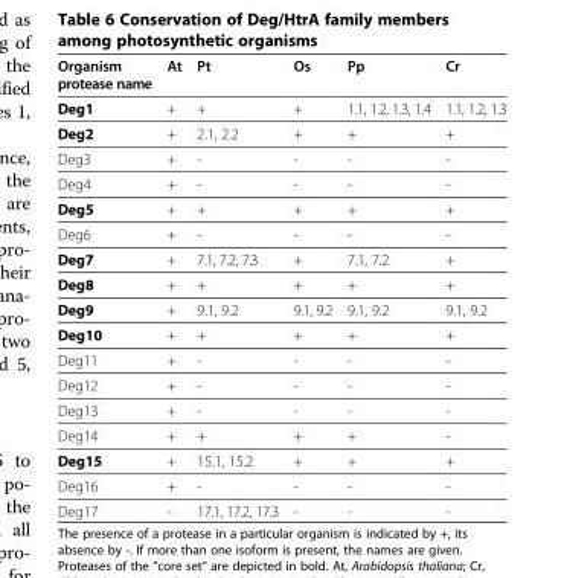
<table><thead><tr><td>Organism protease name</td><td>At</td><td>Pt</td><td>Os</td><td>Pp</td><td>Cr</td></tr></thead><tbody><tr><td>Deg1</td><td>+</td><td>+</td><td>+</td><td>1.1, 1.2, 1.3, 1.4</td><td>1.1, 1.2, 1.3</td></tr><tr><td>Deg2</td><td>+</td><td>2.1, 2.2</td><td>+</td><td>+</td><td>+</td></tr><tr><td>Deg3</td><td>+</td><td>-</td><td>-</td><td>-</td><td>-</td></tr><tr><td>Deg4</td><td>+</td><td>-</td><td>-</td><td>-</td><td>-</td></tr><tr><td>Deg5</td><td>+</td><td>+</td><td>+</td><td>+</td><td>+</td></tr><tr><td>Deg6</td><td>+</td><td>-</td><td>-</td><td>-</td><td>-</td></tr><tr><td>Deg7</td><td>+</td><td>7.1, 7.2, 7.3</td><td>+</td><td>7.1, 7.2</td><td>+</td></tr><tr><td>Deg8</td><td>+</td><td>+</td><td>+</td><td>+</td><td>+</td></tr><tr><td>Deg9</td><td>+</td><td>9.1, 9.2</td><td>9.1, 9.2</td><td>9.1, 9.2</td><td>9.1, 9.2</td></tr><tr><td>Deg10</td><td>+</td><td>+</td><td>+</td><td>+</td><td>+</td></tr><tr><td>Deg11</td><td>+</td><td>-</td><td>-</td><td>-</td><td>-</td></tr><tr><td>Deg12</td><td>+</td><td>-</td><td>-</td><td>-</td><td>-</td></tr><tr><td>Deg13</td><td>+</td><td>-</td><td>-</td><td>-</td><td>-</td></tr><tr><td>Deg14</td><td>+</td><td>+</td><td>+</td><td>+</td><td>-</td></tr><tr><td>Deg15</td><td>+</td><td>15.1, 15.2</td><td>+</td><td>+</td><td>+</td></tr><tr><td>Deg16</td><td>+</td><td>-</td><td>-</td><td>-</td><td>-</td></tr><tr><td>Deg17</td><td>-</td><td>17.1, 17.2, 17.3</td><td>-</td><td>-</td><td>-</td></tr></tbody></table>